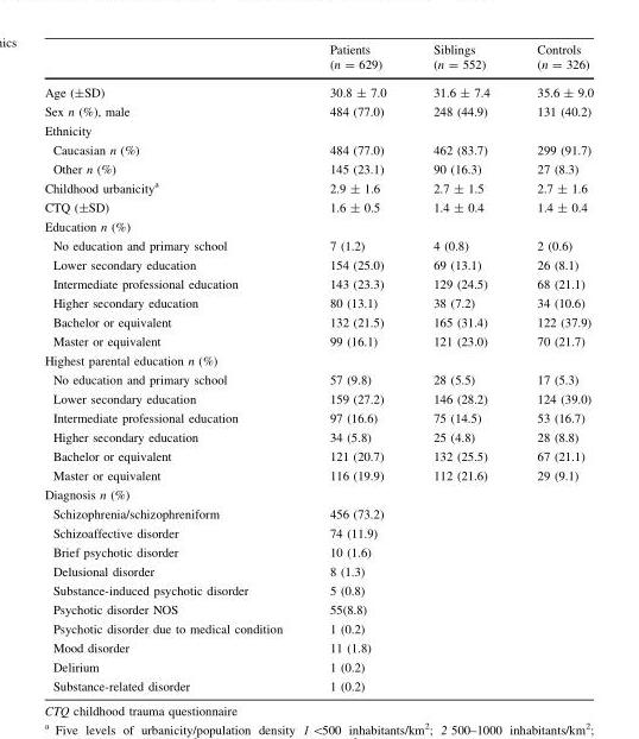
<table><thead><tr><td></td><td>Patients (n = 629)</td><td>Siblings (n = 552)</td><td>Controls (n = 326)</td></tr></thead><tbody><tr><td>Age (±SD)</td><td>30.8 ± 7.0</td><td>31.6 ± 7.4</td><td>35.6 ± 9.0</td></tr><tr><td>Sex n (%), male</td><td>484 (77.0)</td><td>248 (44.9)</td><td>131 (40.2)</td></tr><tr><td colspan="4">Ethnicity</td></tr><tr><td>Caucasian n (%)</td><td>484 (77.0)</td><td>462 (83.7)</td><td>299 (91.7)</td></tr><tr><td>Other n (%)</td><td>145 (23.1)</td><td>90 (16.3)</td><td>27 (8.3)</td></tr><tr><td>Childhood urbanicity<sup>a</sup></td><td>2.9 ± 1.6</td><td>2.7 ± 1.5</td><td>2.7 ± 1.6</td></tr><tr><td>CTQ (±SD)</td><td>1.6 ± 0.5</td><td>1.4 ± 0.4</td><td>1.4 ± 0.4</td></tr><tr><td colspan="4">Education n (%)</td></tr><tr><td>No education and primary school</td><td>7 (1.2)</td><td>4 (0.8)</td><td>2 (0.6)</td></tr><tr><td>Lower secondary education</td><td>154 (25.0)</td><td>69 (13.1)</td><td>26 (8.1)</td></tr><tr><td>Intermediate professional education</td><td>143 (23.3)</td><td>129 (24.5)</td><td>68 (21.1)</td></tr><tr><td>Higher secondary education</td><td>80 (13.1)</td><td>38 (7.2)</td><td>34 (10.6)</td></tr><tr><td>Bachelor or equivalent</td><td>132 (21.5)</td><td>165 (31.4)</td><td>122 (37.9)</td></tr><tr><td>Master or equivalent</td><td>99 (16.1)</td><td>121 (23.0)</td><td>70 (21.7)</td></tr><tr><td colspan="4">Highest parental education n (%)</td></tr><tr><td>No education and primary school</td><td>57 (9.8)</td><td>28 (5.5)</td><td>17 (5.3)</td></tr><tr><td>Lower secondary education</td><td>159 (27.2)</td><td>146 (28.2)</td><td>124 (39.0)</td></tr><tr><td>Intermediate professional education</td><td>97 (16.6)</td><td>75 (14.5)</td><td>53 (16.7)</td></tr><tr><td>Higher secondary education</td><td>34 (5.8)</td><td>25 (4.8)</td><td>28 (8.8)</td></tr><tr><td>Bachelor or equivalent</td><td>121 (20.7)</td><td>132 (25.5)</td><td>67 (21.1)</td></tr><tr><td>Master or equivalent</td><td>116 (19.9)</td><td>112 (21.6)</td><td>29 (9.1)</td></tr><tr><td colspan="4">Diagnosis n (%)</td></tr><tr><td>Schizophrenia/schizophreniform</td><td>456 (73.2)</td><td></td><td></td></tr><tr><td>Schizoaffective disorder</td><td>74 (11.9)</td><td></td><td></td></tr><tr><td>Brief psychotic disorder</td><td>10 (1.6)</td><td></td><td></td></tr><tr><td>Delusional disorder</td><td>8 (1.3)</td><td></td><td></td></tr><tr><td>Substance-induced psychotic disorder</td><td>5 (0.8)</td><td></td><td></td></tr><tr><td>Psychotic disorder NOS</td><td>55(8.8)</td><td></td><td></td></tr><tr><td>Psychotic disorder due to medical condition</td><td>1 (0.2)</td><td></td><td></td></tr><tr><td>Mood disorder</td><td>11 (1.8)</td><td></td><td></td></tr><tr><td>Delirium</td><td>1 (0.2)</td><td></td><td></td></tr><tr><td>Substance-related disorder</td><td>1 (0.2)</td><td></td><td></td></tr></tbody></table>